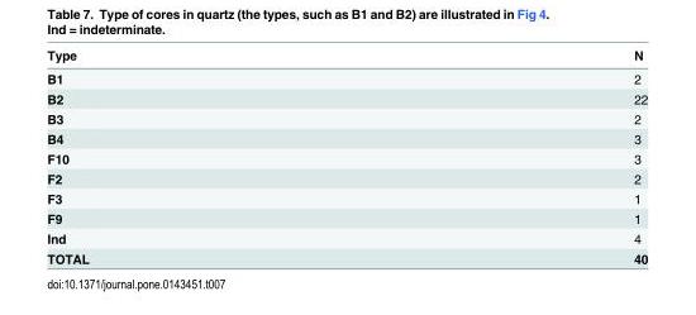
<table><thead><tr><td>Type</td><td>N</td></tr></thead><tbody><tr><td>B1</td><td>2</td></tr><tr><td>B2</td><td>22</td></tr><tr><td>B3</td><td>2</td></tr><tr><td>B4</td><td>3</td></tr><tr><td>F10</td><td>3</td></tr><tr><td>F2</td><td>2</td></tr><tr><td>F3</td><td>1</td></tr><tr><td>F9</td><td>1</td></tr><tr><td>Ind</td><td>4</td></tr><tr><td>TOTAL</td><td>40</td></tr></tbody></table>